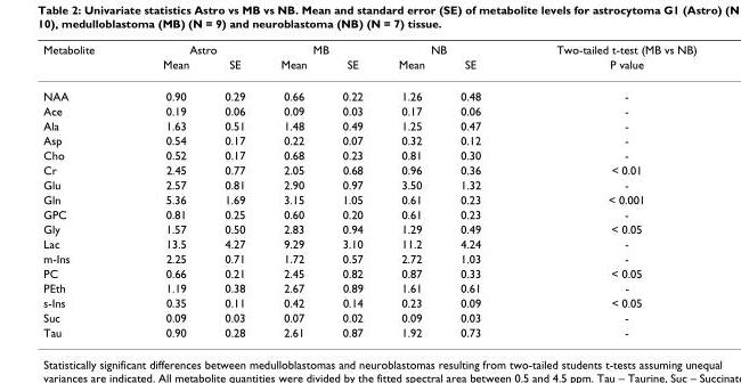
<table><thead><tr><td rowspan="2">Metabolite</td><td colspan="2">Astro</td><td colspan="2">MB</td><td colspan="2">NB</td><td rowspan="2">Two-tailed t-test (MB vs NB) P value</td></tr><tr><td>Mean</td><td>SE</td><td>Mean</td><td>SE</td><td>Mean</td><td>SE</td></tr></thead><tbody><tr><td>NAA</td><td>0.90</td><td>0.29</td><td>0.66</td><td>0.22</td><td>1.26</td><td>0.48</td><td>-</td></tr><tr><td>Ace</td><td>0.19</td><td>0.06</td><td>0.09</td><td>0.03</td><td>0.17</td><td>0.06</td><td>-</td></tr><tr><td>Ala</td><td>1.63</td><td>0.51</td><td>1.48</td><td>0.49</td><td>1.25</td><td>0.47</td><td>-</td></tr><tr><td>Asp</td><td>0.54</td><td>0.17</td><td>0.22</td><td>0.07</td><td>0.32</td><td>0.12</td><td>-</td></tr><tr><td>Cho</td><td>0.52</td><td>0.17</td><td>0.68</td><td>0.23</td><td>0.81</td><td>0.30</td><td>-</td></tr><tr><td>Cr</td><td>2.45</td><td>0.77</td><td>2.05</td><td>0.68</td><td>0.96</td><td>0.36</td><td>&lt; 0.01</td></tr><tr><td>Glu</td><td>2.57</td><td>0.81</td><td>2.90</td><td>0.97</td><td>3.50</td><td>1.32</td><td>-</td></tr><tr><td>Gln</td><td>5.36</td><td>1.69</td><td>3.15</td><td>1.05</td><td>0.61</td><td>0.23</td><td>&lt; 0.001</td></tr><tr><td>GPC</td><td>0.81</td><td>0.25</td><td>0.60</td><td>0.20</td><td>0.61</td><td>0.23</td><td>-</td></tr><tr><td>Gly</td><td>1.57</td><td>0.50</td><td>2.83</td><td>0.94</td><td>1.29</td><td>0.49</td><td>&lt; 0.05</td></tr><tr><td>Lac</td><td>13.5</td><td>4.27</td><td>9.29</td><td>3.10</td><td>11.2</td><td>4.24</td><td>-</td></tr><tr><td>m-Ins</td><td>2.25</td><td>0.71</td><td>1.72</td><td>0.57</td><td>2.72</td><td>1.03</td><td>-</td></tr><tr><td>PC</td><td>0.66</td><td>0.21</td><td>2.45</td><td>0.82</td><td>0.87</td><td>0.33</td><td>&lt; 0.05</td></tr><tr><td>PEth</td><td>1.19</td><td>0.38</td><td>2.67</td><td>0.89</td><td>1.61</td><td>0.61</td><td>-</td></tr><tr><td>s-Ins</td><td>0.35</td><td>0.11</td><td>0.42</td><td>0.14</td><td>0.23</td><td>0.09</td><td>&lt; 0.05</td></tr><tr><td>Suc</td><td>0.09</td><td>0.03</td><td>0.07</td><td>0.02</td><td>0.09</td><td>0.03</td><td>-</td></tr><tr><td>Tau</td><td>0.90</td><td>0.28</td><td>2.61</td><td>0.87</td><td>1.92</td><td>0.73</td><td>-</td></tr></tbody></table>